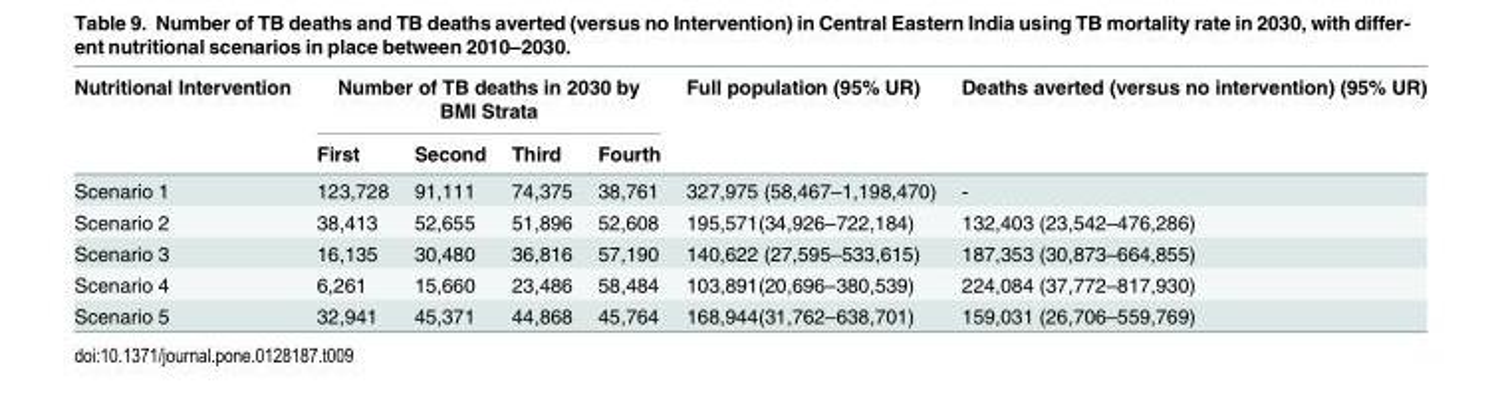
<table><thead><tr><td rowspan="2">Nutritional Intervention</td><td colspan="4">Number of TB deaths in 2030 by BMI Strata</td><td rowspan="2">Full population (95% UR)</td><td rowspan="2">Deaths averted (versus no intervention) (95% UR)</td></tr><tr><td>First</td><td>Second</td><td>Third</td><td>Fourth</td></tr></thead><tbody><tr><td>Scenario 1</td><td>123,728</td><td>91,111</td><td>74,375</td><td>38,761</td><td>327,975 (58,467–1,198,470)</td><td>-</td></tr><tr><td>Scenario 2</td><td>38,413</td><td>52,655</td><td>51,896</td><td>52,608</td><td>195,571(34,926–722,184)</td><td>132,403 (23,542–476,286)</td></tr><tr><td>Scenario 3</td><td>16,135</td><td>30,480</td><td>36,816</td><td>57,190</td><td>140,622 (27,595–533,615)</td><td>187,353 (30,873–664,855)</td></tr><tr><td>Scenario 4</td><td>6,261</td><td>15,660</td><td>23,486</td><td>58,484</td><td>103,891(20,696–380,539)</td><td>224,084 (37,772–817,930)</td></tr><tr><td>Scenario 5</td><td>32,941</td><td>45,371</td><td>44,868</td><td>45,764</td><td>168,944(31,762–638,701)</td><td>159,031 (26,706–559,769)</td></tr></tbody></table>